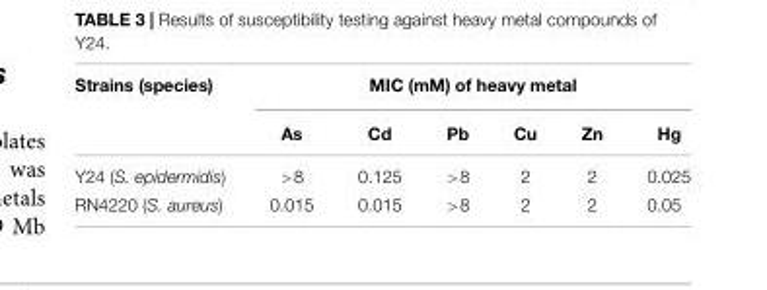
<table><thead><tr><td rowspan="2">Strains (species)</td><td colspan="6">MIC (mM) of heavy metal</td></tr><tr><td>As</td><td>Cd</td><td>Pb</td><td>Cu</td><td>Zn</td><td>Hg</td></tr></thead><tbody><tr><td>Y24 (S. epidermidis)</td><td>&gt;8</td><td>0.125</td><td>&gt;8</td><td>2</td><td>2</td><td>0.025</td></tr><tr><td>RN4220 (S. aureus)</td><td>0.015</td><td>0.015</td><td>&gt;8</td><td>2</td><td>2</td><td>0.05</td></tr></tbody></table>